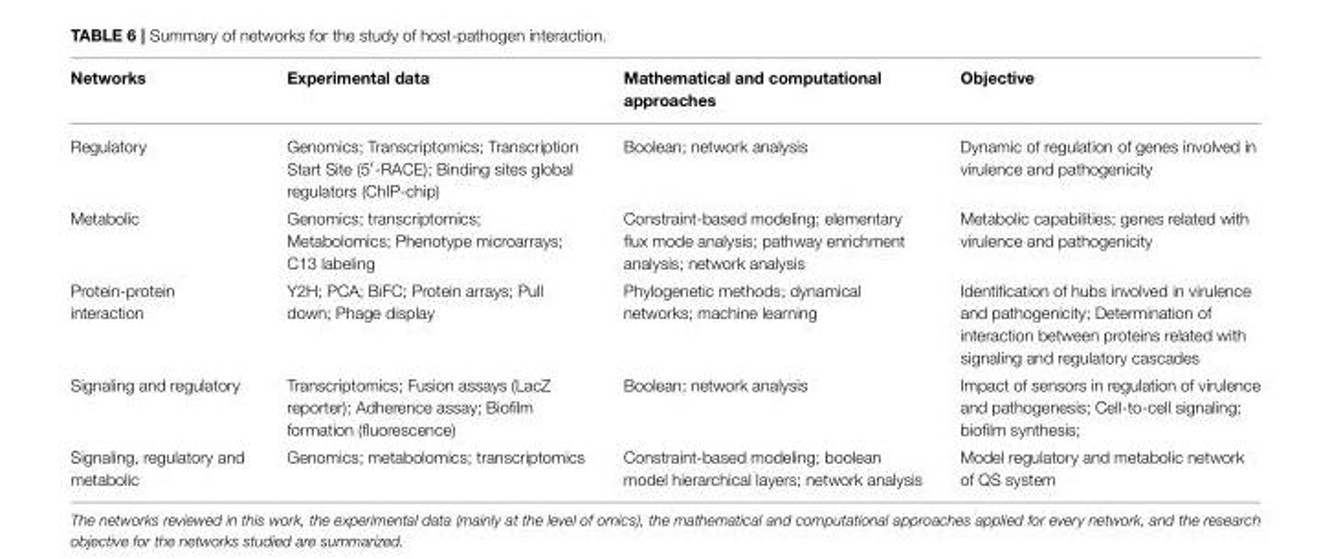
<table><thead><tr><td>Networks</td><td>Experimental data</td><td>Mathematical and computational approaches</td><td>Objective</td></tr></thead><tbody><tr><td>Regulatory</td><td>Genomics; Transcriptomics; Transcription Start Site (5′-RACE); Binding sites global regulators (ChIP-chip)</td><td>Boolean; network analysis</td><td>Dynamic of regulation of genes involved in virulence and pathogenicity</td></tr><tr><td>Metabolic</td><td>Genomics; transcriptomics; Metabolomics; Phenotype microarrays; C13 labeling</td><td>Constraint-based modeling; elementary flux mode analysis; pathway enrichment analysis; network analysis</td><td>Metabolic capabilities; genes related with virulence and pathogenicity</td></tr><tr><td>Protein-protein interaction</td><td>Y2H; PCA; BiFC; Protein arrays; Pull down; Phage display</td><td>Phylogenetic methods; dynamical networks; machine learning</td><td>Identification of hubs involved in virulence and pathogenicity; Determination of interaction between proteins related with signaling and regulatory cascades</td></tr><tr><td>Signaling and regulatory</td><td>Transcriptomics; Fusion assays (LacZ reporter); Adherence assay; Biofilm formation (fluorescence)</td><td>Boolean; network analysis</td><td>Impact of sensors in regulation of virulence and pathogenesis; Cell-to-cell signaling; biofilm synthesis;</td></tr><tr><td>Signaling, regulatory and metabolic</td><td>Genomics; metabolomics; transcriptomics</td><td>Constraint-based modeling; boolean model hierarchical layers; network analysis</td><td>Model regulatory and metabolic network of QS system</td></tr></tbody></table>